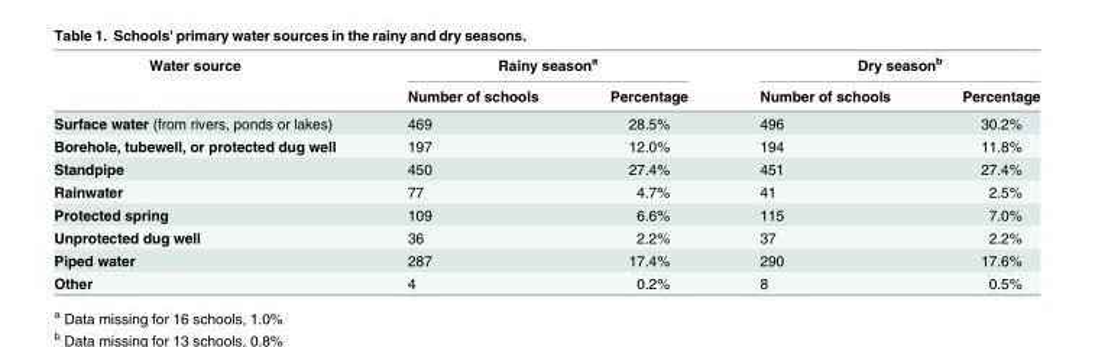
<table><thead><tr><td rowspan="2">Water source</td><td colspan="2">Rainy season<sup>a</sup></td><td colspan="2">Dry season<sup>b</sup></td></tr><tr><td>Number of schools</td><td>Percentage</td><td>Number of schools</td><td>Percentage</td></tr></thead><tbody><tr><td>Surface water (from rivers, ponds or lakes)</td><td>469</td><td>28.5%</td><td>496</td><td>30.2%</td></tr><tr><td>Borehole, tubewell, or protected dug well</td><td>197</td><td>12.0%</td><td>194</td><td>11.8%</td></tr><tr><td>Standpipe</td><td>450</td><td>27.4%</td><td>451</td><td>27.4%</td></tr><tr><td>Rainwater</td><td>77</td><td>4.7%</td><td>41</td><td>2.5%</td></tr><tr><td>Protected spring</td><td>109</td><td>6.6%</td><td>115</td><td>7.0%</td></tr><tr><td>Unprotected dug well</td><td>36</td><td>2.2%</td><td>37</td><td>2.2%</td></tr><tr><td>Piped water</td><td>287</td><td>17.4%</td><td>290</td><td>17.6%</td></tr><tr><td>Other</td><td>4</td><td>0.2%</td><td>8</td><td>0.5%</td></tr></tbody></table>